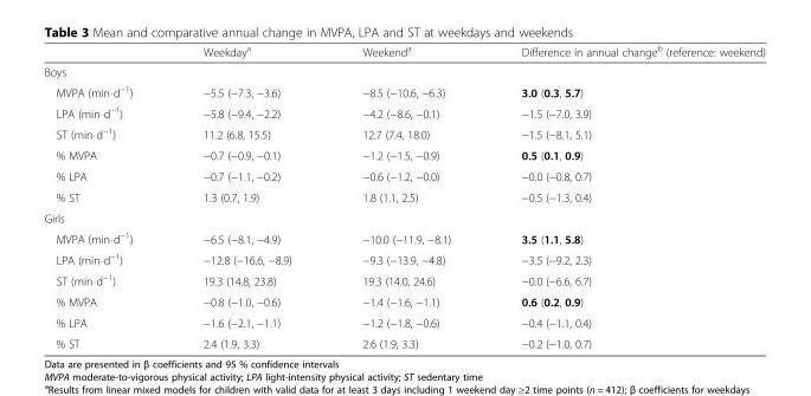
<table><thead><tr><td></td><td>Weekday<sup>a</sup></td><td>Weekend<sup>a</sup></td><td>Difference in annual change<sup>b</sup> (reference: weekend)</td></tr></thead><tbody><tr><td colspan="4">Boys</td></tr><tr><td>MVPA (min⋅d<sup>−1</sup>)</td><td>−5.5 (−7.3, −3.6)</td><td>−8.5 (−10.6, −6.3)</td><td>3.0 (0.3, 5.7)</td></tr><tr><td>LPA (min⋅d<sup>−1</sup>)</td><td>−5.8 (−9.4, −2.2)</td><td>−4.2 (−8.6, −0.1)</td><td>−1.5 (−7.0, 3.9)</td></tr><tr><td>ST (min⋅d<sup>−1</sup>)</td><td>11.2 (6.8, 15.5)</td><td>12.7 (7.4, 18.0)</td><td>−1.5 (−8.1, 5.1)</td></tr><tr><td>% MVPA</td><td>−0.7 (−0.9, −0.1)</td><td>−1.2 (−1.5, −0.9)</td><td>0.5 (0.1, 0.9)</td></tr><tr><td>% LPA</td><td>−0.7 (−1.1, −0.2)</td><td>−0.6 (−1.2, −0.0)</td><td>−0.0 (−0.8, 0.7)</td></tr><tr><td>% ST</td><td>1.3 (0.7, 1.9)</td><td>1.8 (1.1, 2.5)</td><td>−0.5 (−1.3, 0.4)</td></tr><tr><td colspan="4">Girls</td></tr><tr><td>MVPA (min⋅d<sup>−1</sup>)</td><td>−6.5 (−8.1, −4.9)</td><td>−10.0 (−11.9, −8.1)</td><td>3.5 (1.1, 5.8)</td></tr><tr><td>LPA (min⋅d<sup>−1</sup>)</td><td>−12.8 (−16.6, −8.9)</td><td>−9.3 (−13.9, −4.8)</td><td>−3.5 (−9.2, 2.3)</td></tr><tr><td>ST (min⋅d<sup>−1</sup>)</td><td>19.3 (14.8, 23.8)</td><td>19.3 (14.0, 24.6)</td><td>−0.0 (−6.6, 6.7)</td></tr><tr><td>% MVPA</td><td>−0.8 (−1.0, −0.6)</td><td>−1.4 (−1.6, −1.1)</td><td>0.6 (0.2, 0.9)</td></tr><tr><td>% LPA</td><td>−1.6 (−2.1, −1.1)</td><td>−1.2 (−1.8, −0.6)</td><td>−0.4 (−1.1, 0.4)</td></tr><tr><td>% ST</td><td>2.4 (1.9, 3.3)</td><td>2.6 (1.9, 3.3)</td><td>−0.2 (−1.0, 0.7)</td></tr></tbody></table>